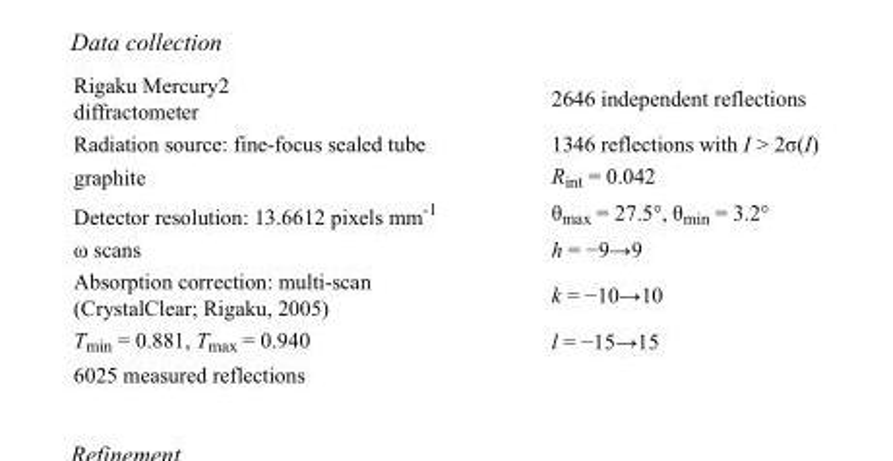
<table><tbody><tr><td>Rigaku Mercury2 diffractometer</td><td>2646 independent reflections</td></tr><tr><td>Radiation source: fine-focus sealed tube</td><td>1346 reflections with I &gt; 2σ(I)</td></tr><tr><td>graphite</td><td>R<sub>int</sub> = 0.042</td></tr><tr><td>Detector resolution: 13.6612 pixels mm<sup>-1</sup></td><td>θ<sub>max</sub> = 27.5°, θ<sub>min</sub> = 3.2°</td></tr><tr><td>ω scans</td><td>h = −9→9</td></tr><tr><td>Absorption correction: multi-scan (CrystalClear; Rigaku, 2005)</td><td>k = −10→10</td></tr><tr><td>T<sub>min</sub> = 0.881, T<sub>max</sub> = 0.940</td><td>l = −15→15</td></tr><tr><td>6025 measured reflections</td><td></td></tr></tbody></table>